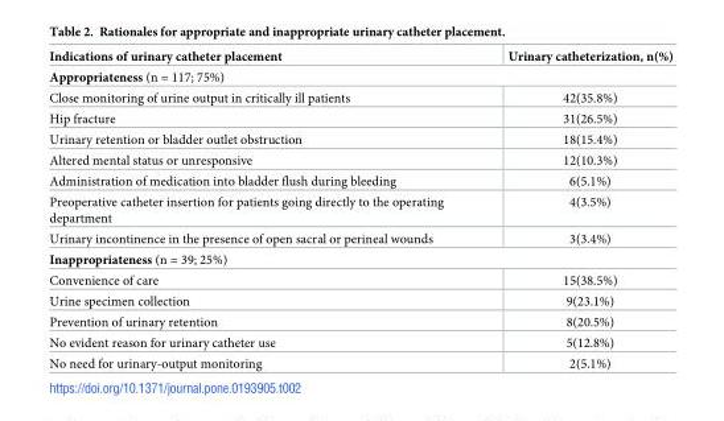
<table><thead><tr><td>Indications of urinary catheter placement</td><td>Urinary catheterization, n(%)</td></tr></thead><tbody><tr><td colspan="2">Appropriateness (n = 117; 75%)</td></tr><tr><td>Close monitoring of urine output in critically ill patients</td><td>42(35.8%)</td></tr><tr><td>Hip fracture</td><td>31(26.5%)</td></tr><tr><td>Urinary retention or bladder outlet obstruction</td><td>18(15.4%)</td></tr><tr><td>Altered mental status or unresponsive</td><td>12(10.3%)</td></tr><tr><td>Administration of medication into bladder flush during bleeding</td><td>6(5.1%)</td></tr><tr><td>Preoperative catheter insertion for patients going directly to the operating department</td><td>4(3.5%)</td></tr><tr><td>Urinary incontinence in the presence of open sacral or perineal wounds</td><td>3(3.4%)</td></tr><tr><td colspan="2">Inappropriateness (n = 39; 25%)</td></tr><tr><td>Convenience of care</td><td>15(38.5%)</td></tr><tr><td>Urine specimen collection</td><td>9(23.1%)</td></tr><tr><td>Prevention of urinary retention</td><td>8(20.5%)</td></tr><tr><td>No evident reason for urinary catheter use</td><td>5(12.8%)</td></tr><tr><td>No need for urinary-output monitoring</td><td>2(5.1%)</td></tr></tbody></table>